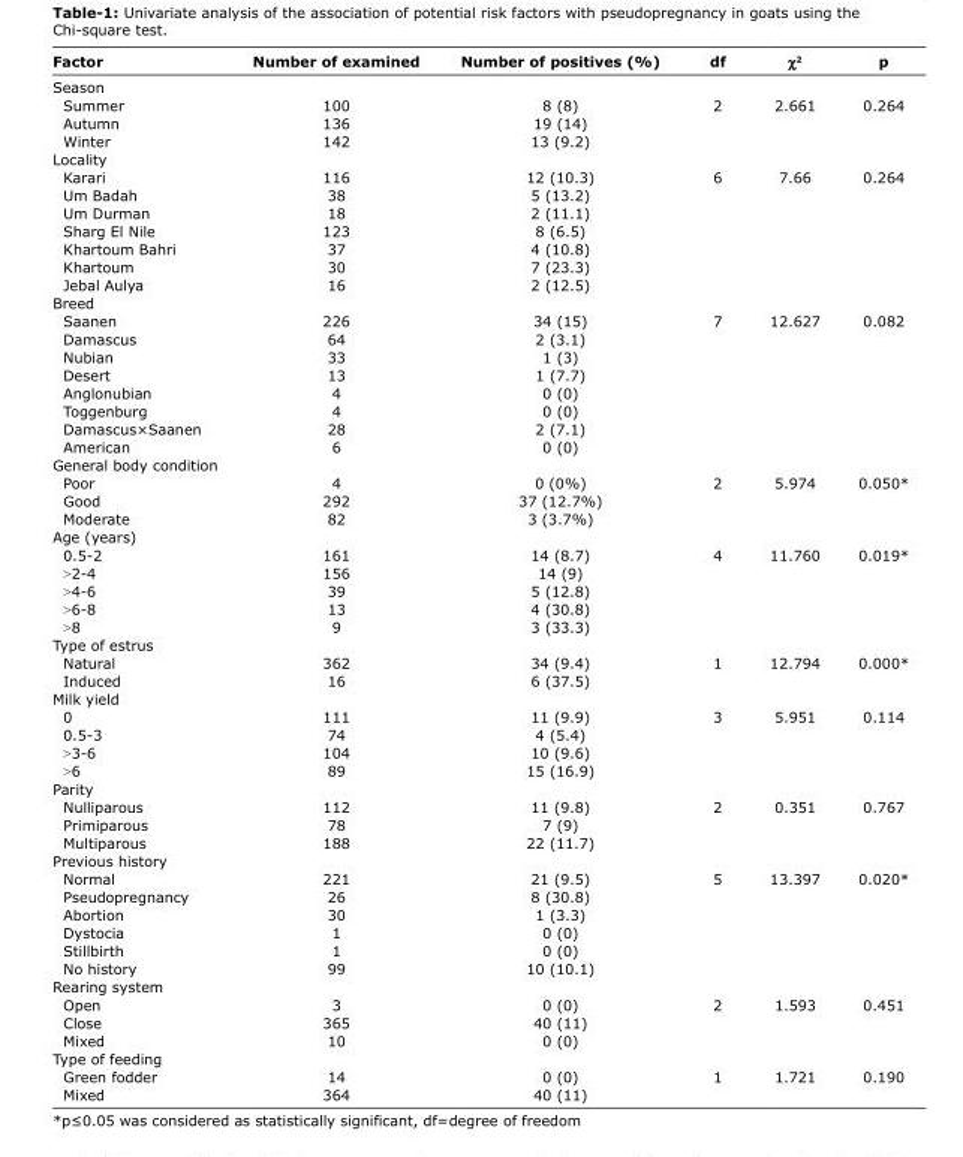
<table><thead><tr><td>Factor</td><td>Number of examined</td><td>Number of positives (%)</td><td>df</td><td>χ<sup>2</sup></td><td>p</td></tr></thead><tbody><tr><td colspan="6">Season</td></tr><tr><td>Summer</td><td>100</td><td>8 (8)</td><td>2</td><td>2.661</td><td>0.264</td></tr><tr><td>Autumn</td><td>136</td><td>19 (14)</td><td></td><td></td><td></td></tr><tr><td>Winter</td><td>142</td><td>13 (9.2)</td><td></td><td></td><td></td></tr><tr><td colspan="6">Locality</td></tr><tr><td>Karari</td><td>116</td><td>12 (10.3)</td><td>6</td><td>7.66</td><td>0.264</td></tr><tr><td>Um Badah</td><td>38</td><td>5 (13.2)</td><td></td><td></td><td></td></tr><tr><td>Um Durman</td><td>18</td><td>2 (11.1)</td><td></td><td></td><td></td></tr><tr><td>Sharg El Nile</td><td>123</td><td>8 (6.5)</td><td></td><td></td><td></td></tr><tr><td>Khartoum Bahri</td><td>37</td><td>4 (10.8)</td><td></td><td></td><td></td></tr><tr><td>Khartoum</td><td>30</td><td>7 (23.3)</td><td></td><td></td><td></td></tr><tr><td>Jebal Aulya</td><td>16</td><td>2 (12.5)</td><td></td><td></td><td></td></tr><tr><td colspan="6">Breed</td></tr><tr><td>Saanen</td><td>226</td><td>34 (15)</td><td>7</td><td>12.627</td><td>0.082</td></tr><tr><td>Damascus</td><td>64</td><td>2 (3.1)</td><td></td><td></td><td></td></tr><tr><td>Nubian</td><td>33</td><td>1 (3)</td><td></td><td></td><td></td></tr><tr><td>Desert</td><td>13</td><td>1 (7.7)</td><td></td><td></td><td></td></tr><tr><td>Anglonubian</td><td>4</td><td>0 (0)</td><td></td><td></td><td></td></tr><tr><td>Toggenburg</td><td>4</td><td>0 (0)</td><td></td><td></td><td></td></tr><tr><td>Damascus×Saanen</td><td>28</td><td>2 (7.1)</td><td></td><td></td><td></td></tr><tr><td>American</td><td>6</td><td>0 (0)</td><td></td><td></td><td></td></tr><tr><td colspan="6">General body condition</td></tr><tr><td>Poor</td><td>4</td><td>0 (0%)</td><td>2</td><td>5.974</td><td>0.050*</td></tr><tr><td>Good</td><td>292</td><td>37 (12.7%)</td><td></td><td></td><td></td></tr><tr><td>Moderate</td><td>82</td><td>3 (3.7%)</td><td></td><td></td><td></td></tr><tr><td colspan="6">Age (years)</td></tr><tr><td>0.5-2</td><td>161</td><td>14 (8.7)</td><td>4</td><td>11.760</td><td>0.019*</td></tr><tr><td>˃2-4</td><td>156</td><td>14 (9)</td><td></td><td></td><td></td></tr><tr><td>˃4-6</td><td>39</td><td>5 (12.8)</td><td></td><td></td><td></td></tr><tr><td>˃6-8</td><td>13</td><td>4 (30.8)</td><td></td><td></td><td></td></tr><tr><td>˃8</td><td>9</td><td>3 (33.3)</td><td></td><td></td><td></td></tr><tr><td colspan="6">Type of estrus</td></tr><tr><td>Natural</td><td>362</td><td>34 (9.4)</td><td>1</td><td>12.794</td><td>0.000*</td></tr><tr><td>Induced</td><td>16</td><td>6 (37.5)</td><td></td><td></td><td></td></tr><tr><td colspan="6">Milk yield</td></tr><tr><td>0</td><td>111</td><td>11 (9.9)</td><td>3</td><td>5.951</td><td>0.114</td></tr><tr><td>0.5-3</td><td>74</td><td>4 (5.4)</td><td></td><td></td><td></td></tr><tr><td>˃3-6</td><td>104</td><td>10 (9.6)</td><td></td><td></td><td></td></tr><tr><td>˃6</td><td>89</td><td>15 (16.9)</td><td></td><td></td><td></td></tr><tr><td colspan="6">Parity</td></tr><tr><td>Nulliparous</td><td>112</td><td>11 (9.8)</td><td>2</td><td>0.351</td><td>0.767</td></tr><tr><td>Primiparous</td><td>78</td><td>7 (9)</td><td></td><td></td><td></td></tr><tr><td>Multiparous</td><td>188</td><td>22 (11.7)</td><td></td><td></td><td></td></tr><tr><td colspan="6">Previous history</td></tr><tr><td>Normal</td><td>221</td><td>21 (9.5)</td><td>5</td><td>13.397</td><td>0.020*</td></tr><tr><td>Pseudopregnancy</td><td>26</td><td>8 (30.8)</td><td></td><td></td><td></td></tr><tr><td>Abortion</td><td>30</td><td>1 (3.3)</td><td></td><td></td><td></td></tr><tr><td>Dystocia</td><td>1</td><td>0 (0)</td><td></td><td></td><td></td></tr><tr><td>Stillbirth</td><td>1</td><td>0 (0)</td><td></td><td></td><td></td></tr><tr><td>No history</td><td>99</td><td>10 (10.1)</td><td></td><td></td><td></td></tr><tr><td colspan="6">Rearing system</td></tr><tr><td>Open</td><td>3</td><td>0 (0)</td><td>2</td><td>1.593</td><td>0.451</td></tr><tr><td>Close</td><td>365</td><td>40 (11)</td><td></td><td></td><td></td></tr><tr><td>Mixed</td><td>10</td><td>0 (0)</td><td></td><td></td><td></td></tr><tr><td colspan="6">Type of feeding</td></tr><tr><td>Green fodder</td><td>14</td><td>0 (0)</td><td>1</td><td>1.721</td><td>0.190</td></tr><tr><td>Mixed</td><td>364</td><td>40 (11)</td><td></td><td></td><td></td></tr></tbody></table>